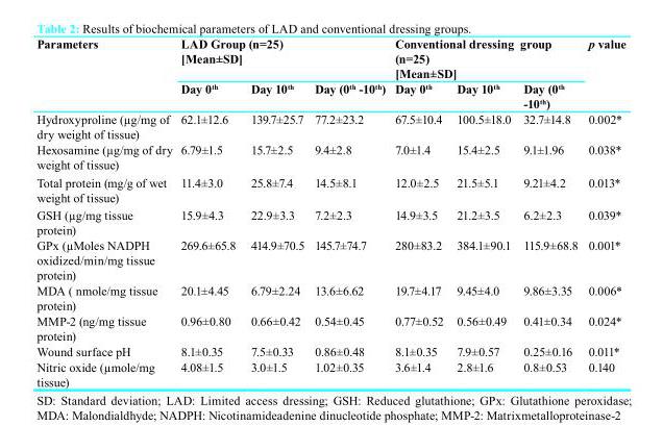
<table><thead><tr><td rowspan="2">Parameters</td><td colspan="3">LAD Group (n=25) [Mean±SD]</td><td colspan="3">Conventional dressing group (n=25) [Mean±SD]</td><td rowspan="2">p value</td></tr><tr><td>Day 0<sup>th</sup></td><td>Day 10<sup>th</sup></td><td>Day (0<sup>th</sup> -10<sup>th</sup>)</td><td>Day 0<sup>th</sup></td><td>Day 10<sup>th</sup></td><td>Day (0<sup>th</sup> -10<sup>th</sup>)</td></tr></thead><tbody><tr><td>Hydroxyproline (µg/mg of dry weight of tissue)</td><td>62.1±12.6</td><td>139.7±25.7</td><td>77.2±23.2</td><td>67.5±10.4</td><td>100.5±18.0</td><td>32.7±14.8</td><td>0.002*</td></tr><tr><td>Hexosamine (µg/mg of dry weight of tissue)</td><td>6.79±1.5</td><td>15.7±2.5</td><td>9.4±2.8</td><td>7.0±1.4</td><td>15.4±2.5</td><td>9.1±1.96</td><td>0.038*</td></tr><tr><td>Total protein (mg/g of wet weight of tissue)</td><td>11.4±3.0</td><td>25.8±7.4</td><td>14.5±8.1</td><td>12.0±2.5</td><td>21.5±5.1</td><td>9.21±4.2</td><td>0.013*</td></tr><tr><td>GSH (µg/mg tissue protein)</td><td>15.9±4.3</td><td>22.9±3.3</td><td>7.2±2.3</td><td>14.9±3.5</td><td>21.2±3.5</td><td>6.2±2.3</td><td>0.039*</td></tr><tr><td>GPx (µMoles NADPH oxidized/min/mg tissue protein)</td><td>269.6±65.8</td><td>414.9±70.5</td><td>145.7±74.7</td><td>280±83.2</td><td>384.1±90.1</td><td>115.9±68.8</td><td>0.001*</td></tr><tr><td>MDA ( nmole/mg tissue protein)</td><td>20.1±4.45</td><td>6.79±2.24</td><td>13.6±6.62</td><td>19.7±4.17</td><td>9.45±4.0</td><td>9.86±3.35</td><td>0.006*</td></tr><tr><td>MMP-2 (ng/mg tissue protein)</td><td>0.96±0.80</td><td>0.66±0.42</td><td>0.54±0.45</td><td>0.77±0.52</td><td>0.56±0.49</td><td>0.41±0.34</td><td>0.024*</td></tr><tr><td>Wound surface pH</td><td>8.1±0.35</td><td>7.5±0.33</td><td>0.86±0.48</td><td>8.1±0.35</td><td>7.9±0.57</td><td>0.25±0.16</td><td>0.011*</td></tr><tr><td>Nitric oxide (µmole/mg tissue)</td><td>4.08±1.5</td><td>3.0±1.5</td><td>1.02±0.35</td><td>3.6±1.4</td><td>2.8±1.6</td><td>0.8±0.53</td><td>0.140</td></tr></tbody></table>